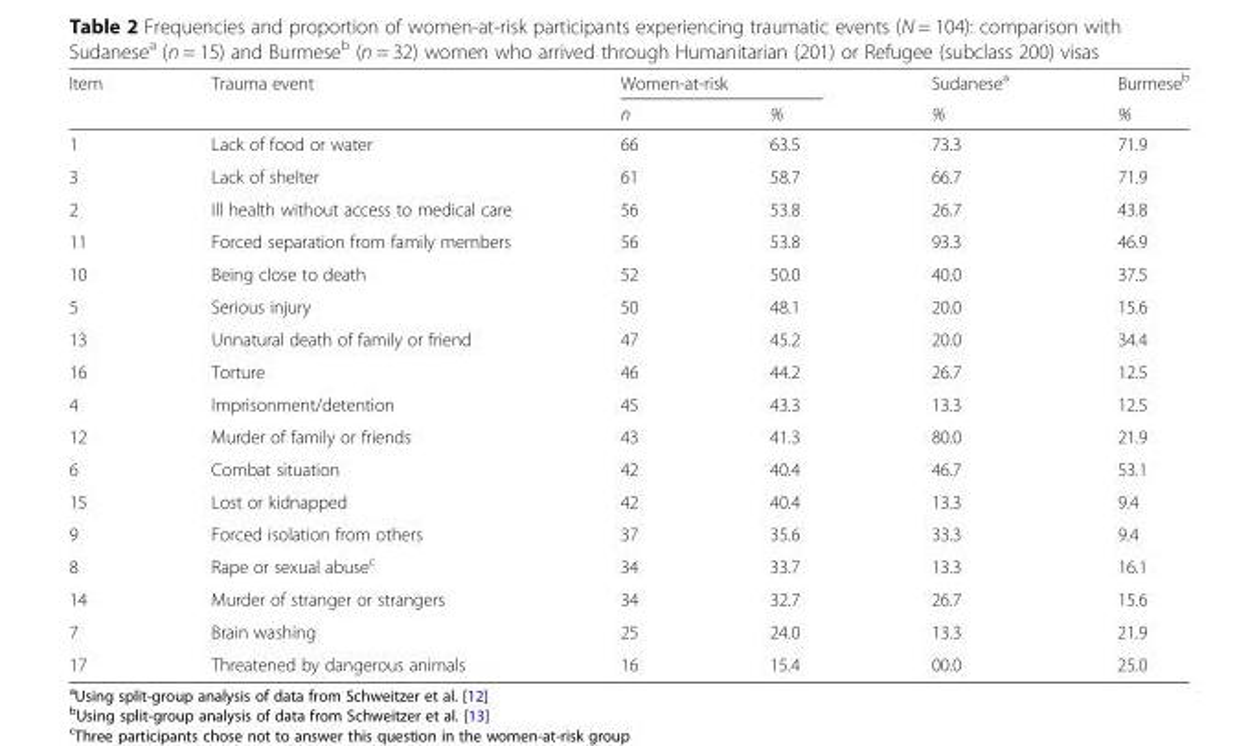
<table><thead><tr><td rowspan="2">Item</td><td rowspan="2">Trauma event</td><td colspan="2">Women-at-risk</td><td rowspan="2">Sudanese<sup>a</sup> %</td><td rowspan="2">Burmese<sup>b</sup> %</td></tr><tr><td>n</td><td>%</td></tr></thead><tbody><tr><td>1</td><td>Lack of food or water</td><td>66</td><td>63.5</td><td>73.3</td><td>71.9</td></tr><tr><td>3</td><td>Lack of shelter</td><td>61</td><td>58.7</td><td>66.7</td><td>71.9</td></tr><tr><td>2</td><td>Ill health without access to medical care</td><td>56</td><td>53.8</td><td>26.7</td><td>43.8</td></tr><tr><td>11</td><td>Forced separation from family members</td><td>56</td><td>53.8</td><td>93.3</td><td>46.9</td></tr><tr><td>10</td><td>Being close to death</td><td>52</td><td>50.0</td><td>40.0</td><td>37.5</td></tr><tr><td>5</td><td>Serious injury</td><td>50</td><td>48.1</td><td>20.0</td><td>15.6</td></tr><tr><td>13</td><td>Unnatural death of family or friend</td><td>47</td><td>45.2</td><td>20.0</td><td>34.4</td></tr><tr><td>16</td><td>Torture</td><td>46</td><td>44.2</td><td>26.7</td><td>12.5</td></tr><tr><td>4</td><td>Imprisonment/detention</td><td>45</td><td>43.3</td><td>13.3</td><td>12.5</td></tr><tr><td>12</td><td>Murder of family or friends</td><td>43</td><td>41.3</td><td>80.0</td><td>21.9</td></tr><tr><td>6</td><td>Combat situation</td><td>42</td><td>40.4</td><td>46.7</td><td>53.1</td></tr><tr><td>15</td><td>Lost or kidnapped</td><td>42</td><td>40.4</td><td>13.3</td><td>9.4</td></tr><tr><td>9</td><td>Forced isolation from others</td><td>37</td><td>35.6</td><td>33.3</td><td>9.4</td></tr><tr><td>8</td><td>Rape or sexual abuse<sup>c</sup></td><td>34</td><td>33.7</td><td>13.3</td><td>16.1</td></tr><tr><td>14</td><td>Murder of stranger or strangers</td><td>34</td><td>32.7</td><td>26.7</td><td>15.6</td></tr><tr><td>7</td><td>Brain washing</td><td>25</td><td>24.0</td><td>13.3</td><td>21.9</td></tr><tr><td>17</td><td>Threatened by dangerous animals</td><td>16</td><td>15.4</td><td>00.0</td><td>25.0</td></tr></tbody></table>